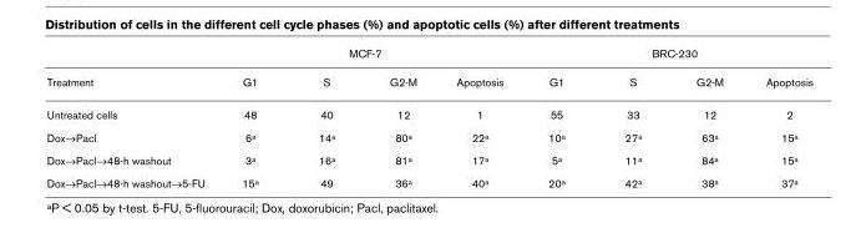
<table><thead><tr><td rowspan="2">Treatment</td><td colspan="4">MCF-7</td><td colspan="4">BRC-230</td></tr><tr><td>G1</td><td>S</td><td>G2-M</td><td>Apoptosis</td><td>G1</td><td>S</td><td>G2-M</td><td>Apoptosis</td></tr></thead><tbody><tr><td>Untreated cells</td><td>48</td><td>40</td><td>12</td><td>1</td><td>55</td><td>33</td><td>12</td><td>2</td></tr><tr><td>Dox→Pacl</td><td>6a</td><td>14a</td><td>80a</td><td>22a</td><td>10a</td><td>27a</td><td>63a</td><td>15a</td></tr><tr><td>Dox→Pacl→48-h washout</td><td>3a</td><td>16a</td><td>81a</td><td>17a</td><td>5a</td><td>11a</td><td>84a</td><td>15a</td></tr><tr><td>Dox→Pacl→48-h washout→5-FU</td><td>15a</td><td>49</td><td>36a</td><td>40a</td><td>20a</td><td>42a</td><td>38a</td><td>37a</td></tr></tbody></table>